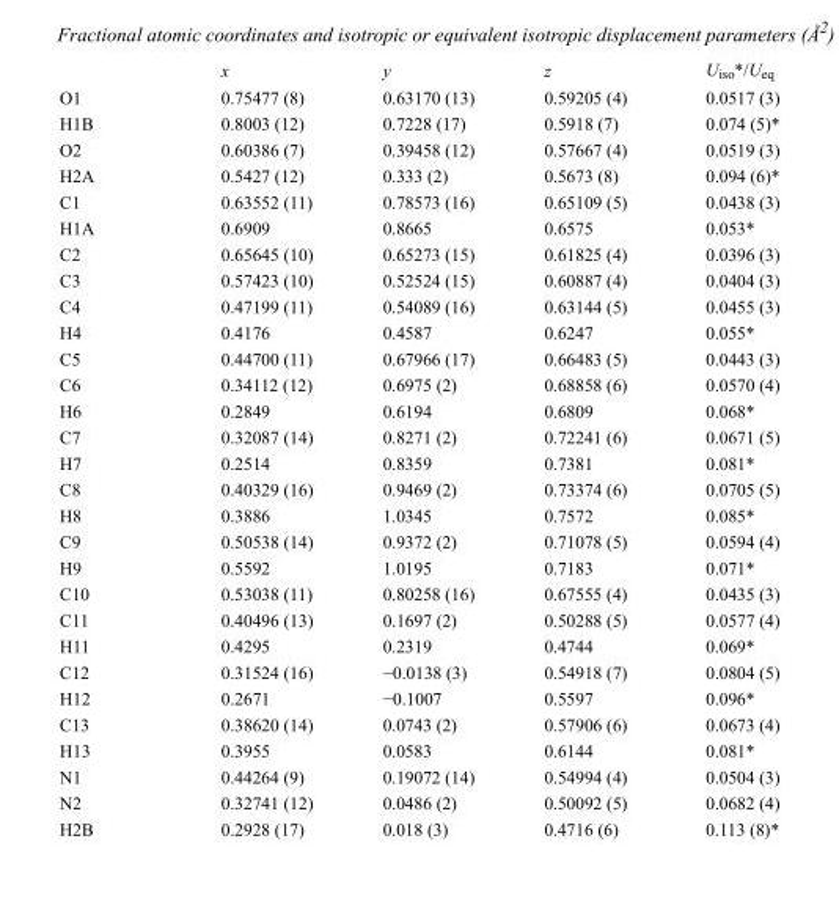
<table><thead><tr><td></td><td>x</td><td>y</td><td>z</td><td>U<sub>iso</sub>*/U<sub>eq</sub></td></tr></thead><tbody><tr><td>O1</td><td>0.75477 (8)</td><td>0.63170 (13)</td><td>0.59205 (4)</td><td>0.0517 (3)</td></tr><tr><td>H1B</td><td>0.8003 (12)</td><td>0.7228 (17)</td><td>0.5918 (7)</td><td>0.074 (5)*</td></tr><tr><td>O2</td><td>0.60386 (7)</td><td>0.39458 (12)</td><td>0.57667 (4)</td><td>0.0519 (3)</td></tr><tr><td>H2A</td><td>0.5427 (12)</td><td>0.333 (2)</td><td>0.5673 (8)</td><td>0.094 (6)*</td></tr><tr><td>C1</td><td>0.63552 (11)</td><td>0.78573 (16)</td><td>0.65109 (5)</td><td>0.0438 (3)</td></tr><tr><td>H1A</td><td>0.6909</td><td>0.8665</td><td>0.6575</td><td>0.053*</td></tr><tr><td>C2</td><td>0.65645 (10)</td><td>0.65273 (15)</td><td>0.61825 (4)</td><td>0.0396 (3)</td></tr><tr><td>C3</td><td>0.57423 (10)</td><td>0.52524 (15)</td><td>0.60887 (4)</td><td>0.0404 (3)</td></tr><tr><td>C4</td><td>0.47199 (11)</td><td>0.54089 (16)</td><td>0.63144 (5)</td><td>0.0455 (3)</td></tr><tr><td>H4</td><td>0.4176</td><td>0.4587</td><td>0.6247</td><td>0.055*</td></tr><tr><td>C5</td><td>0.44700 (11)</td><td>0.67966 (17)</td><td>0.66483 (5)</td><td>0.0443 (3)</td></tr><tr><td>C6</td><td>0.34112 (12)</td><td>0.6975 (2)</td><td>0.68858 (6)</td><td>0.0570 (4)</td></tr><tr><td>H6</td><td>0.2849</td><td>0.6194</td><td>0.6809</td><td>0.068*</td></tr><tr><td>C7</td><td>0.32087 (14)</td><td>0.8271 (2)</td><td>0.72241 (6)</td><td>0.0671 (5)</td></tr><tr><td>H7</td><td>0.2514</td><td>0.8359</td><td>0.7381</td><td>0.081*</td></tr><tr><td>C8</td><td>0.40329 (16)</td><td>0.9469 (2)</td><td>0.73374 (6)</td><td>0.0705 (5)</td></tr><tr><td>H8</td><td>0.3886</td><td>1.0345</td><td>0.7572</td><td>0.085*</td></tr><tr><td>C9</td><td>0.50538 (14)</td><td>0.9372 (2)</td><td>0.71078 (5)</td><td>0.0594 (4)</td></tr><tr><td>H9</td><td>0.5592</td><td>1.0195</td><td>0.7183</td><td>0.071*</td></tr><tr><td>C10</td><td>0.53038 (11)</td><td>0.80258 (16)</td><td>0.67555 (4)</td><td>0.0435 (3)</td></tr><tr><td>C11</td><td>0.40496 (13)</td><td>0.1697 (2)</td><td>0.50288 (5)</td><td>0.0577 (4)</td></tr><tr><td>H11</td><td>0.4295</td><td>0.2319</td><td>0.4744</td><td>0.069*</td></tr><tr><td>C12</td><td>0.31524 (16)</td><td>−0.0138 (3)</td><td>0.54918 (7)</td><td>0.0804 (5)</td></tr><tr><td>H12</td><td>0.2671</td><td>−0.1007</td><td>0.5597</td><td>0.096*</td></tr><tr><td>C13</td><td>0.38620 (14)</td><td>0.0743 (2)</td><td>0.57906 (6)</td><td>0.0673 (4)</td></tr><tr><td>H13</td><td>0.3955</td><td>0.0583</td><td>0.6144</td><td>0.081*</td></tr><tr><td>N1</td><td>0.44264 (9)</td><td>0.19072 (14)</td><td>0.54994 (4)</td><td>0.0504 (3)</td></tr><tr><td>N2</td><td>0.32741 (12)</td><td>0.0486 (2)</td><td>0.50092 (5)</td><td>0.0682 (4)</td></tr><tr><td>H2B</td><td>0.2928 (17)</td><td>0.018 (3)</td><td>0.4716 (6)</td><td>0.113 (8)*</td></tr></tbody></table>